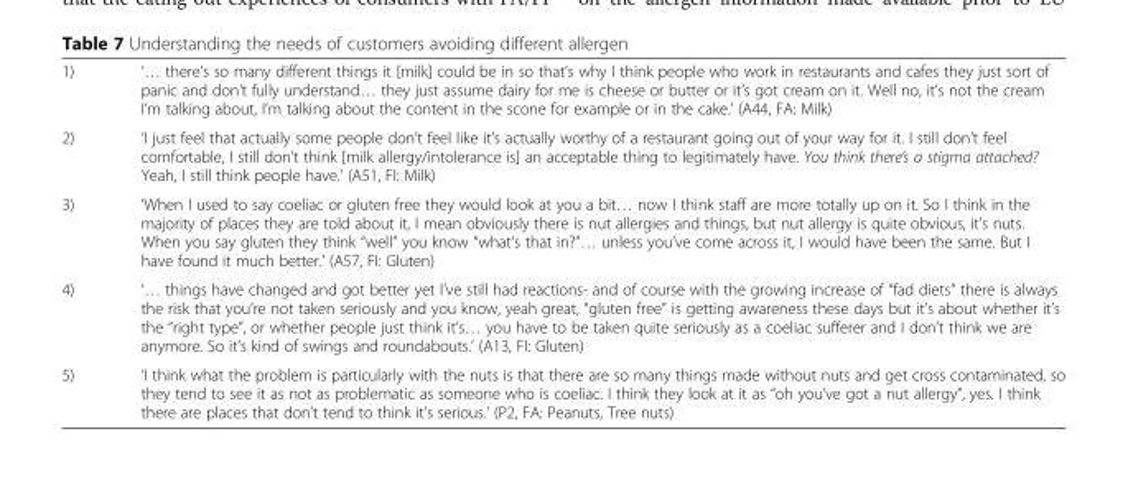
<table><tbody><tr><td>1)</td><td>‘… there’s so many different things it [milk] could be in so that’s why I think people who work in restaurants and cafes they just sort of panic and don’t fully understand… they just assume dairy for me is cheese or butter or it’s got cream on it. Well no, it’s not the cream I’m talking about, I’m talking about the content in the scone for example or in the cake.’ (A44, FA: Milk)</td></tr><tr><td>2)</td><td>‘I just feel that actually some people don’t feel like it’s actually worthy of a restaurant going out of your way for it. I still don’t feel comfortable, I still don’t think [milk allergy/intolerance is] an acceptable thing to legitimately have. You think there’s a stigma attached? Yeah, I still think people have.’ (A51, FI: Milk)</td></tr><tr><td>3)</td><td>‘When I used to say coeliac or gluten free they would look at you a bit… now I think staff are more totally up on it. So I think in the majority of places they are told about it, I mean obviously there is nut allergies and things, but nut allergy is quite obvious, it’s nuts. When you say gluten they think “well” you know “what’s that in?”… unless you’ve come across it, I would have been the same. But I have found it much better.’ (A57, FI: Gluten)</td></tr><tr><td>4)</td><td>‘… things have changed and got better yet I’ve still had reactions- and of course with the growing increase of “fad diets” there is always the risk that you’re not taken seriously and you know, yeah great, “gluten free” is getting awareness these days but it’s about whether it’s the “right type”, or whether people just think it’s… you have to be taken quite seriously as a coeliac sufferer and I don’t think we are anymore. So it’s kind of swings and roundabouts.’ (A13, FI: Gluten)</td></tr><tr><td>5)</td><td>‘I think what the problem is particularly with the nuts is that there are so many things made without nuts and get cross contaminated, so they tend to see it as not as problematic as someone who is coeliac. I think they look at it as “oh you’ve got a nut allergy”, yes. I think there are places that don’t tend to think it’s serious.’ (P2, FA: Peanuts, Tree nuts)</td></tr></tbody></table>